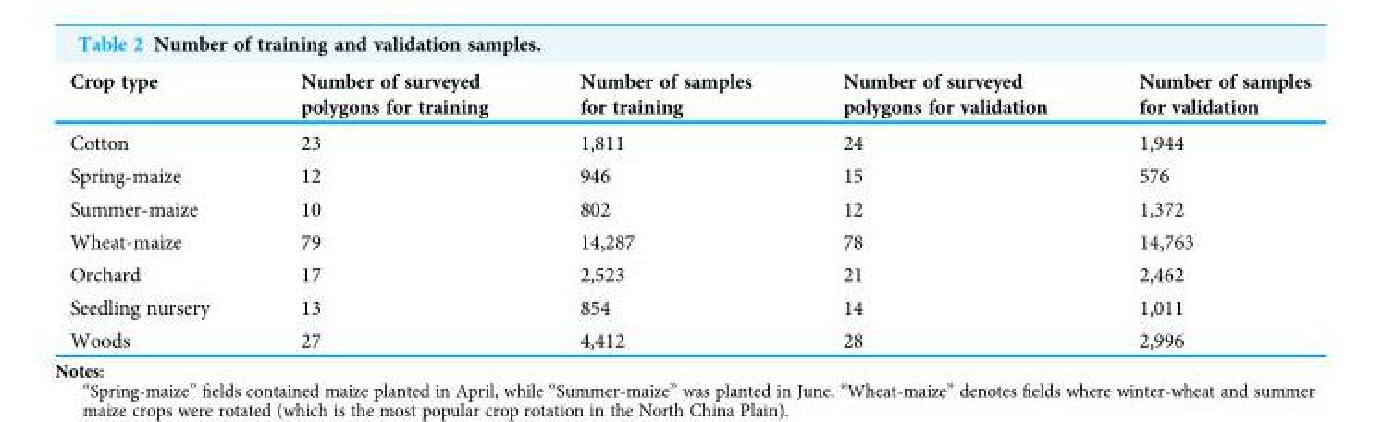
<table><thead><tr><td>Crop type</td><td>Number of surveyed polygons for training</td><td>Number of samples for training</td><td>Number of surveyed polygons for validation</td><td>Number of samples for validation</td></tr></thead><tbody><tr><td>Cotton</td><td>23</td><td>1,811</td><td>24</td><td>1,944</td></tr><tr><td>Spring-maize</td><td>12</td><td>946</td><td>15</td><td>576</td></tr><tr><td>Summer-maize</td><td>10</td><td>802</td><td>12</td><td>1,372</td></tr><tr><td>Wheat-maize</td><td>79</td><td>14,287</td><td>78</td><td>14,763</td></tr><tr><td>Orchard</td><td>17</td><td>2,523</td><td>21</td><td>2,462</td></tr><tr><td>Seedling nursery</td><td>13</td><td>854</td><td>14</td><td>1,011</td></tr><tr><td>Woods</td><td>27</td><td>4,412</td><td>28</td><td>2,996</td></tr></tbody></table>